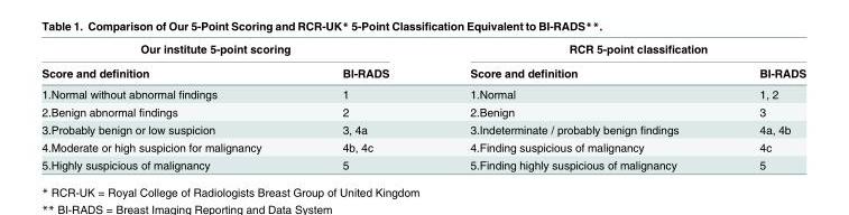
<table><thead><tr><td colspan="2">Our institute 5-point scoring</td><td colspan="2">RCR 5-point classification</td></tr><tr><td>Score and definition</td><td>BI-RADS</td><td>Score and definition</td><td>BI-RADS</td></tr></thead><tbody><tr><td>1.Normal without abnormal findings</td><td>1</td><td>1.Normal</td><td>1, 2</td></tr><tr><td>2.Benign abnormal findings</td><td>2</td><td>2.Benign</td><td>3</td></tr><tr><td>3.Probably benign or low suspicion</td><td>3, 4a</td><td>3.Indeterminate / probably benign findings</td><td>4a, 4b</td></tr><tr><td>4.Moderate or high suspicion for malignancy</td><td>4b, 4c</td><td>4.Finding suspicious of malignancy</td><td>4c</td></tr><tr><td>5.Highly suspicious of malignancy</td><td>5</td><td>5.Finding highly suspicious of malignancy</td><td>5</td></tr></tbody></table>